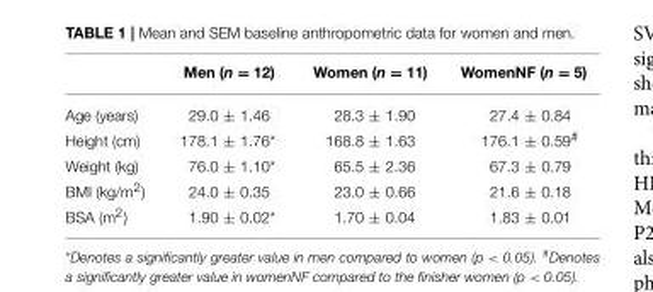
<table><thead><tr><td></td><td>Men (n = 12)</td><td>Women (n = 11)</td><td>WomenNF (n = 5)</td></tr></thead><tbody><tr><td>Age (years)</td><td>29.0 ± 1.46</td><td>28.3 ± 1.90</td><td>27.4 ± 0.84</td></tr><tr><td>Height (cm)</td><td>178.1 ± 1.76*</td><td>168.8 ± 1.63</td><td>176.1 ± 0.59<sup>#</sup></td></tr><tr><td>Weight (kg)</td><td>76.0 ± 1.10*</td><td>65.5 ± 2.36</td><td>67.3 ± 0.79</td></tr><tr><td>BMI (kg/m<sup>2</sup>)</td><td>24.0 ± 0.35</td><td>23.0 ± 0.66</td><td>21.6 ± 0.18</td></tr><tr><td>BSA (m<sup>2</sup>)</td><td>1.90 ± 0.02*</td><td>1.70 ± 0.04</td><td>1.83 ± 0.01</td></tr></tbody></table>